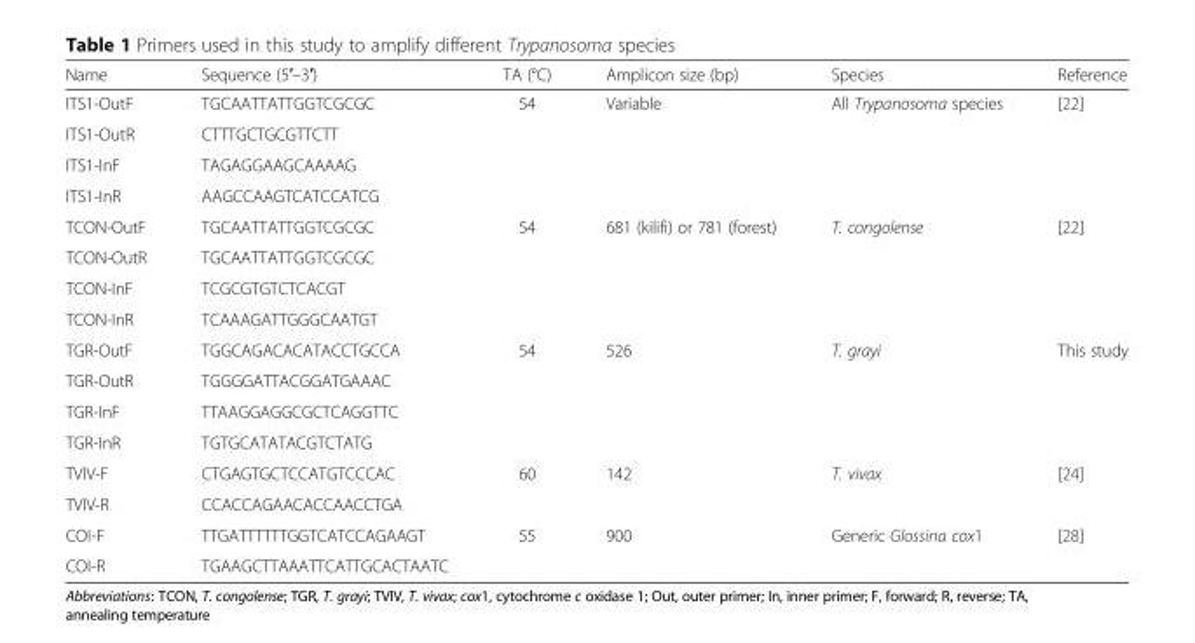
<table><thead><tr><td>Name</td><td>Sequence (5′–3′)</td><td>TA (°C)</td><td>Amplicon size (bp)</td><td>Species</td><td>Reference</td></tr></thead><tbody><tr><td>ITS1-OutF</td><td>TGCAATTATTGGTCGCGC</td><td rowspan="4">54</td><td rowspan="4">Variable</td><td rowspan="4">All Trypanosoma species</td><td rowspan="4">[22]</td></tr><tr><td>ITS1-OutR</td><td>CTTTGCTGCGTTCTT</td></tr><tr><td>ITS1-InF</td><td>TAGAGGAAGCAAAAG</td></tr><tr><td>ITS1-InR</td><td>AAGCCAAGTCATCCATCG</td></tr><tr><td>TCON-OutF</td><td>TGCAATTATTGGTCGCGC</td><td rowspan="4">54</td><td rowspan="4">681 (kilifi) or 781 (forest)</td><td rowspan="4">T. congolense</td><td rowspan="4">[22]</td></tr><tr><td>TCON-OutR</td><td>TGCAATTATTGGTCGCGC</td></tr><tr><td>TCON-InF</td><td>TCGCGTGTCTCACGT</td></tr><tr><td>TCON-InR</td><td>TCAAAGATTGGGCAATGT</td></tr><tr><td>TGR-OutF</td><td>TGGCAGACACATACCTGCCA</td><td rowspan="4">54</td><td rowspan="4">526</td><td rowspan="4">T. grayi</td><td rowspan="4">This study</td></tr><tr><td>TGR-OutR</td><td>TGGGGATTACGGATGAAAC</td></tr><tr><td>TGR-InF</td><td>TTAAGGAGGCGCTCAGGTTC</td></tr><tr><td>TGR-InR</td><td>TGTGCATATACGTCTATG</td></tr><tr><td>TVIV-F</td><td>CTGAGTGCTCCATGTCCCAC</td><td rowspan="2">60</td><td rowspan="2">142</td><td rowspan="2">T. vivax</td><td rowspan="2">[24]</td></tr><tr><td>TVIV-R</td><td>CCACCAGAACACCAACCTGA</td></tr><tr><td>COI-F</td><td>TTGATTTTTTGGTCATCCAGAAGT</td><td rowspan="2">55</td><td rowspan="2">900</td><td rowspan="2">Generic Glossina cox1</td><td rowspan="2">[28]</td></tr><tr><td>COI-R</td><td>TGAAGCTTAAATTCATTGCACTAATC</td></tr></tbody></table>